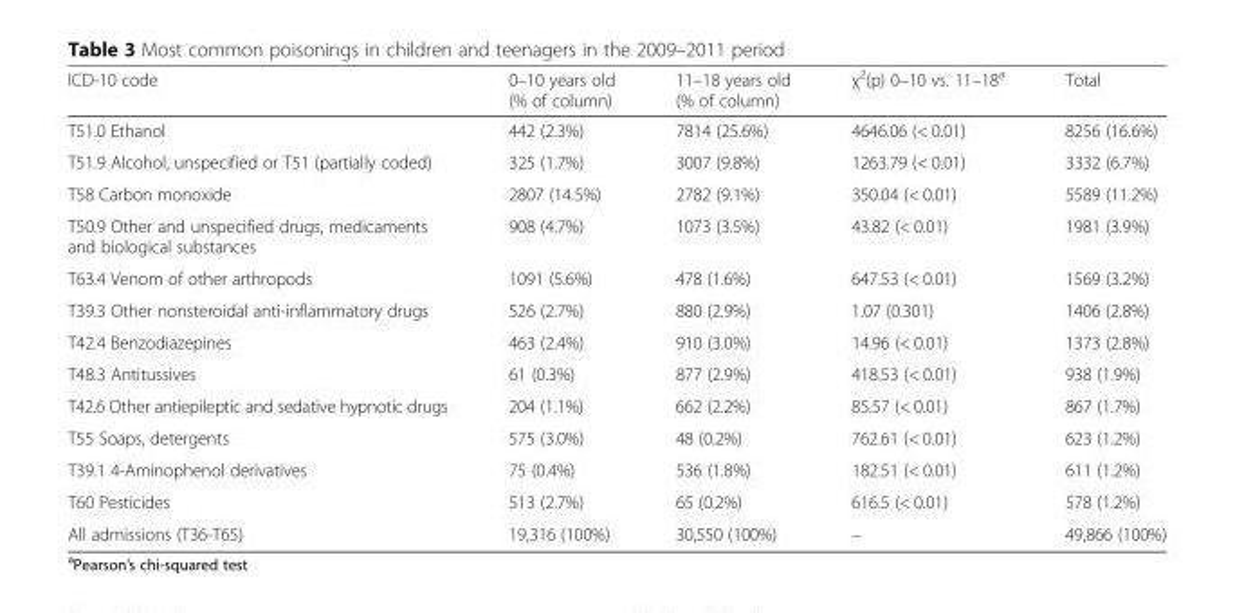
<table><thead><tr><td>ICD-10 code</td><td>0–10 years old (% of column)</td><td>11–18 years old (% of column)</td><td>χ<sup>2</sup>(p) 0–10 vs. 11–18<sup>a</sup></td><td>Total</td></tr></thead><tbody><tr><td>T51.0 Ethanol</td><td>442 (2.3%)</td><td>7814 (25.6%)</td><td>4646.06 (&lt; 0.01)</td><td>8256 (16.6%)</td></tr><tr><td>T51.9 Alcohol, unspecified or T51 (partially coded)</td><td>325 (1.7%)</td><td>3007 (9.8%)</td><td>1263.79 (&lt; 0.01)</td><td>3332 (6.7%)</td></tr><tr><td>T58 Carbon monoxide</td><td>2807 (14.5%)</td><td>2782 (9.1%)</td><td>350.04 (&lt; 0.01)</td><td>5589 (11.2%)</td></tr><tr><td>T50.9 Other and unspecified drugs, medicaments and biological substances</td><td>908 (4.7%)</td><td>1073 (3.5%)</td><td>43.82 (&lt; 0.01)</td><td>1981 (3.9%)</td></tr><tr><td>T63.4 Venom of other arthropods</td><td>1091 (5.6%)</td><td>478 (1.6%)</td><td>647.53 (&lt; 0.01)</td><td>1569 (3.2%)</td></tr><tr><td>T39.3 Other nonsteroidal anti-inflammatory drugs</td><td>526 (2.7%)</td><td>880 (2.9%)</td><td>1.07 (0.301)</td><td>1406 (2.8%)</td></tr><tr><td>T42.4 Benzodiazepines</td><td>463 (2.4%)</td><td>910 (3.0%)</td><td>14.96 (&lt; 0.01)</td><td>1373 (2.8%)</td></tr><tr><td>T48.3 Antitussives</td><td>61 (0.3%)</td><td>877 (2.9%)</td><td>418.53 (&lt; 0.01)</td><td>938 (1.9%)</td></tr><tr><td>T42.6 Other antiepileptic and sedative hypnotic drugs</td><td>204 (1.1%)</td><td>662 (2.2%)</td><td>85.57 (&lt; 0.01)</td><td>867 (1.7%)</td></tr><tr><td>T55 Soaps, detergents</td><td>575 (3.0%)</td><td>48 (0.2%)</td><td>762.61 (&lt; 0.01)</td><td>623 (1.2%)</td></tr><tr><td>T39.1 4-Aminophenol derivatives</td><td>75 (0.4%)</td><td>536 (1.8%)</td><td>182.51 (&lt; 0.01)</td><td>611 (1.2%)</td></tr><tr><td>T60 Pesticides</td><td>513 (2.7%)</td><td>65 (0.2%)</td><td>616.5 (&lt; 0.01)</td><td>578 (1.2%)</td></tr><tr><td>All admissions (T36-T65)</td><td>19,316 (100%)</td><td>30,550 (100%)</td><td>–</td><td>49,866 (100%)</td></tr></tbody></table>